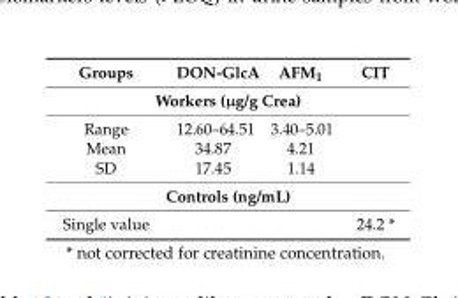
<table><thead><tr><td>Groups</td><td>DON-GlcA</td><td>AFM<sub>1</sub></td><td>CIT</td></tr></thead><tbody><tr><td colspan="4">Workers (µg/g Crea)</td></tr><tr><td>Range</td><td>12.60–64.51</td><td>3.40–5.01</td><td></td></tr><tr><td>Mean</td><td>34.87</td><td>4.21</td><td></td></tr><tr><td>SD</td><td>17.45</td><td>1.14</td><td></td></tr><tr><td colspan="4">Controls (ng/mL)</td></tr><tr><td>Single value</td><td></td><td></td><td>24.2 *</td></tr></tbody></table>